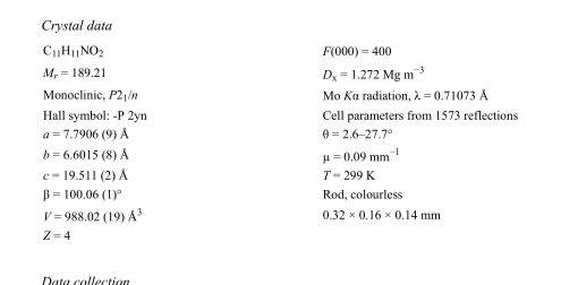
<table><tbody><tr><td>C<sub>11</sub>H<sub>11</sub>NO<sub>2</sub></td><td>F(000) = 400</td></tr><tr><td>M<sub>r</sub> = 189.21</td><td>D<sub>x</sub> = 1.272 Mg m<sup>−3</sup></td></tr><tr><td>Monoclinic, P2<sub>1</sub>/n</td><td>Mo Kα radiation, λ = 0.71073 Å</td></tr><tr><td>Hall symbol: -P 2yn</td><td>Cell parameters from 1573 reflections</td></tr><tr><td>a = 7.7906 (9) Å</td><td>θ = 2.6–27.7°</td></tr><tr><td>b = 6.6015 (8) Å</td><td>µ = 0.09 mm<sup>−1</sup></td></tr><tr><td>c = 19.511 (2) Å</td><td>T = 299 K</td></tr><tr><td>β = 100.06 (1)°</td><td>Rod, colourless</td></tr><tr><td>V = 988.02 (19) Å<sup>3</sup></td><td>0.32 × 0.16 × 0.14 mm</td></tr><tr><td>Z = 4</td><td></td></tr></tbody></table>